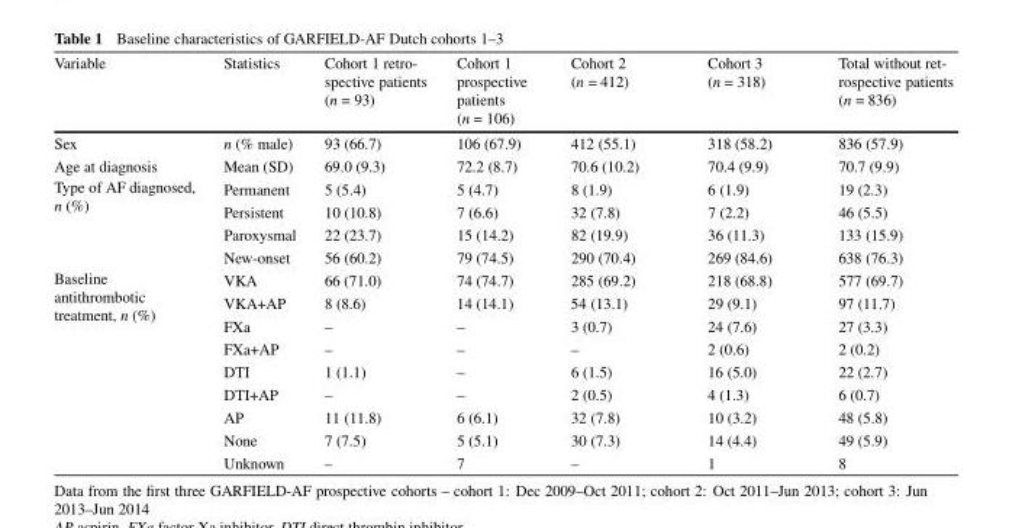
<table><thead><tr><td>Variable</td><td>Statistics</td><td>Cohort 1 retro- spective patients (n = 93)</td><td>Cohort 1 prospective patients (n = 106)</td><td>Cohort 2 (n = 412)</td><td>Cohort 3 (n = 318)</td><td>Total without ret- rospective patients (n = 836)</td></tr></thead><tbody><tr><td>Sex</td><td>n (% male)</td><td>93 (66.7)</td><td>106 (67.9)</td><td>412 (55.1)</td><td>318 (58.2)</td><td>836 (57.9)</td></tr><tr><td>Age at diagnosis</td><td>Mean (SD)</td><td>69.0 (9.3)</td><td>72.2 (8.7)</td><td>70.6 (10.2)</td><td>70.4 (9.9)</td><td>70.7 (9.9)</td></tr><tr><td rowspan="4">Type of AF diagnosed, n (%)</td><td>Permanent</td><td>5 (5.4)</td><td>5 (4.7)</td><td>8 (1.9)</td><td>6 (1.9)</td><td>19 (2.3)</td></tr><tr><td>Persistent</td><td>10 (10.8)</td><td>7 (6.6)</td><td>32 (7.8)</td><td>7 (2.2)</td><td>46 (5.5)</td></tr><tr><td>Paroxysmal</td><td>22 (23.7)</td><td>15 (14.2)</td><td>82 (19.9)</td><td>36 (11.3)</td><td>133 (15.9)</td></tr><tr><td>New-onset</td><td>56 (60.2)</td><td>79 (74.5)</td><td>290 (70.4)</td><td>269 (84.6)</td><td>638 (76.3)</td></tr><tr><td rowspan="9">Baseline antithrombotic treatment, n (%)</td><td>VKA</td><td>66 (71.0)</td><td>74 (74.7)</td><td>285 (69.2)</td><td>218 (68.8)</td><td>577 (69.7)</td></tr><tr><td>VKA+AP</td><td>8 (8.6)</td><td>14 (14.1)</td><td>54 (13.1)</td><td>29 (9.1)</td><td>97 (11.7)</td></tr><tr><td>FXa</td><td>–</td><td>–</td><td>3 (0.7)</td><td>24 (7.6)</td><td>27 (3.3)</td></tr><tr><td>FXa+AP</td><td>–</td><td>–</td><td>–</td><td>2 (0.6)</td><td>2 (0.2)</td></tr><tr><td>DTI</td><td>1 (1.1)</td><td>–</td><td>6 (1.5)</td><td>16 (5.0)</td><td>22 (2.7)</td></tr><tr><td>DTI+AP</td><td>–</td><td>–</td><td>2 (0.5)</td><td>4 (1.3)</td><td>6 (0.7)</td></tr><tr><td>AP</td><td>11 (11.8)</td><td>6 (6.1)</td><td>32 (7.8)</td><td>10 (3.2)</td><td>48 (5.8)</td></tr><tr><td>None</td><td>7 (7.5)</td><td>5 (5.1)</td><td>30 (7.3)</td><td>14 (4.4)</td><td>49 (5.9)</td></tr><tr><td>Unknown</td><td>–</td><td>7</td><td>–</td><td>1</td><td>8</td></tr></tbody></table>